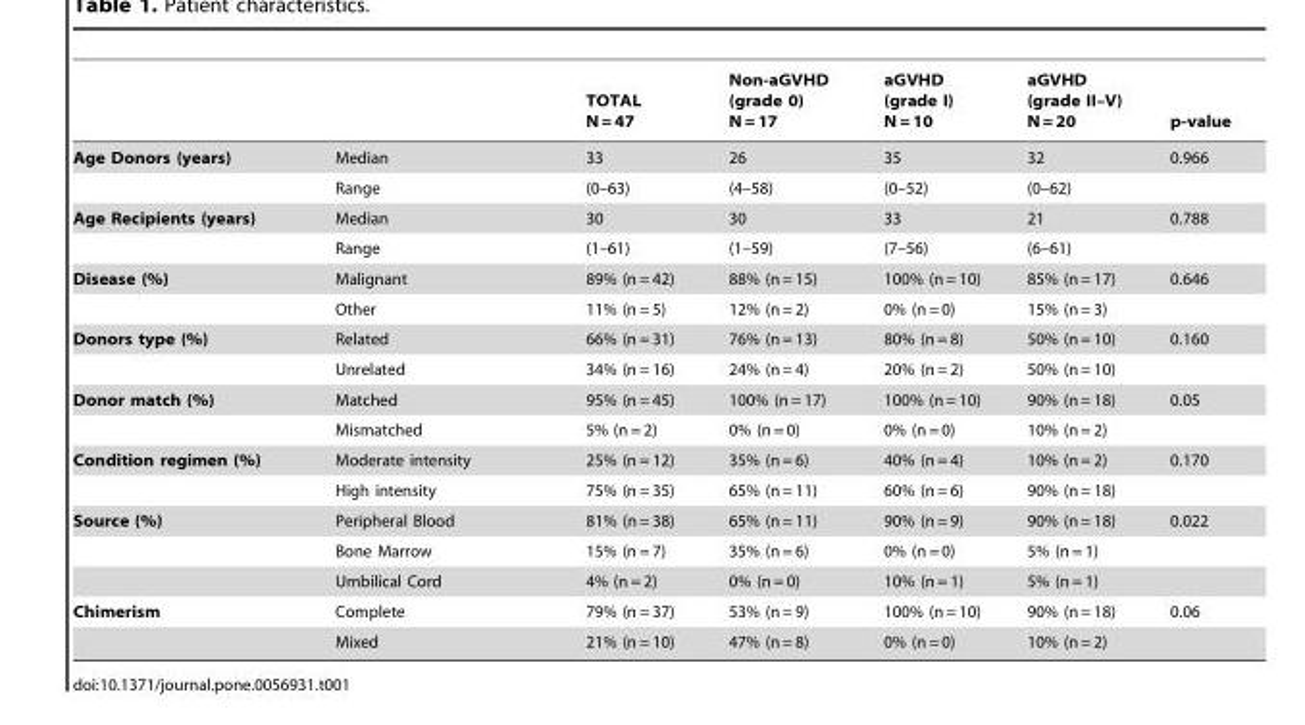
<table><thead><tr><td></td><td></td><td>TOTAL N = 47</td><td>Non-aGVHD (grade 0) N = 17</td><td>aGVHD (grade I) N = 10</td><td>aGVHD (grade II–V) N = 20</td><td>p-value</td></tr></thead><tbody><tr><td rowspan="2">Age Donors (years)</td><td>Median</td><td>33</td><td>26</td><td>35</td><td>32</td><td>0.966</td></tr><tr><td>Range</td><td>(0–63)</td><td>(4–58)</td><td>(0–52)</td><td>(0–62)</td><td></td></tr><tr><td rowspan="2">Age Recipients (years)</td><td>Median</td><td>30</td><td>30</td><td>33</td><td>21</td><td>0.788</td></tr><tr><td>Range</td><td>(1–61)</td><td>(1–59)</td><td>(7–56)</td><td>(6–61)</td><td></td></tr><tr><td rowspan="2">Disease (%)</td><td>Malignant</td><td>89% (n = 42)</td><td>88% (n = 15)</td><td>100% (n = 10)</td><td>85% (n = 17)</td><td>0.646</td></tr><tr><td>Other</td><td>11% (n = 5)</td><td>12% (n = 2)</td><td>0% (n = 0)</td><td>15% (n = 3)</td><td></td></tr><tr><td rowspan="2">Donors type (%)</td><td>Related</td><td>66% (n = 31)</td><td>76% (n = 13)</td><td>80% (n = 8)</td><td>50% (n = 10)</td><td>0.160</td></tr><tr><td>Unrelated</td><td>34% (n = 16)</td><td>24% (n = 4)</td><td>20% (n = 2)</td><td>50% (n = 10)</td><td></td></tr><tr><td rowspan="2">Donor match (%)</td><td>Matched</td><td>95% (n = 45)</td><td>100% (n = 17)</td><td>100% (n = 10)</td><td>90% (n = 18)</td><td>0.05</td></tr><tr><td>Mismatched</td><td>5% (n = 2)</td><td>0% (n = 0)</td><td>0% (n = 0)</td><td>10% (n = 2)</td><td></td></tr><tr><td rowspan="2">Condition regimen (%)</td><td>Moderate intensity</td><td>25% (n = 12)</td><td>35% (n = 6)</td><td>40% (n = 4)</td><td>10% (n = 2)</td><td>0.170</td></tr><tr><td>High intensity</td><td>75% (n = 35)</td><td>65% (n = 11)</td><td>60% (n = 6)</td><td>90% (n = 18)</td><td></td></tr><tr><td rowspan="3">Source (%)</td><td>Peripheral Blood</td><td>81% (n = 38)</td><td>65% (n = 11)</td><td>90% (n = 9)</td><td>90% (n = 18)</td><td>0.022</td></tr><tr><td>Bone Marrow</td><td>15% (n = 7)</td><td>35% (n = 6)</td><td>0% (n = 0)</td><td>5% (n = 1)</td><td></td></tr><tr><td>Umbilical Cord</td><td>4% (n = 2)</td><td>0% (n = 0)</td><td>10% (n = 1)</td><td>5% (n = 1)</td><td></td></tr><tr><td rowspan="2">Chimerism</td><td>Complete</td><td>79% (n = 37)</td><td>53% (n = 9)</td><td>100% (n = 10)</td><td>90% (n = 18)</td><td>0.06</td></tr><tr><td>Mixed</td><td>21% (n = 10)</td><td>47% (n = 8)</td><td>0% (n = 0)</td><td>10% (n = 2)</td><td></td></tr></tbody></table>